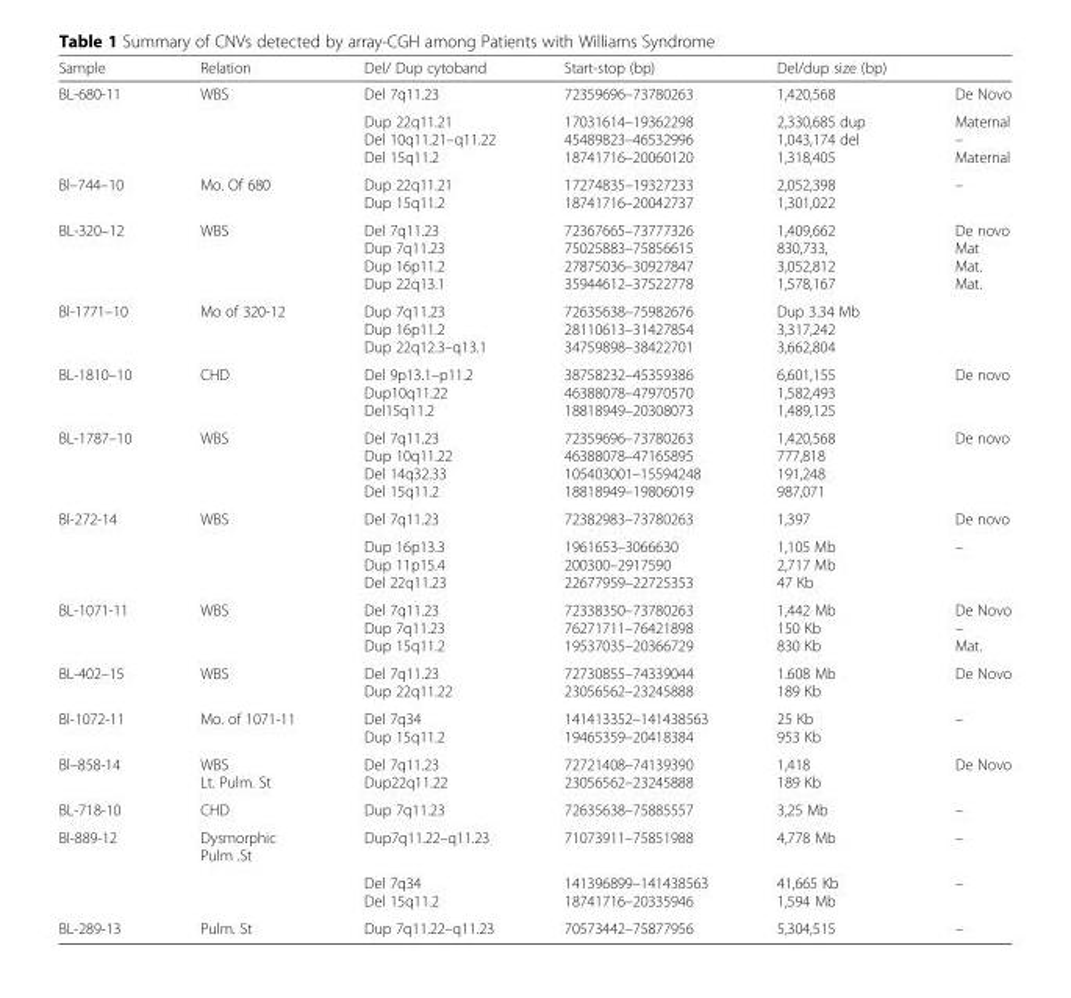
<table><thead><tr><td>Sample</td><td>Relation</td><td>Del/ Dup cytoband</td><td>Start-stop (bp)</td><td>Del/dup size (bp)</td><td></td></tr></thead><tbody><tr><td rowspan="2">BL-680-11</td><td rowspan="2">WBS</td><td>Del 7q11.23</td><td>72359696–73780263</td><td>1,420,568</td><td>De Novo</td></tr><tr><td>Dup 22q11.21 Del 10q11.21–q11.22 Del 15q11.2</td><td>17031614–19362298 45489823–46532996 18741716–20060120</td><td>2,330,685 dup 1,043,174 del 1,318,405</td><td>Maternal – Maternal</td></tr><tr><td>Bl–744–10</td><td>Mo. Of 680</td><td>Dup 22q11.21 Dup 15q11.2</td><td>17274835–19327233 18741716–20042737</td><td>2,052,398 1,301,022</td><td>–</td></tr><tr><td>BL-320–12</td><td>WBS</td><td>Del 7q11.23 Dup 7q11.23 Dup 16p11.2 Dup 22q13.1</td><td>72367665–73777326 75025883–75856615 27875036–30927847 35944612–37522778</td><td>1,409,662 830,733, 3,052,812 1,578,167</td><td>De novo Mat Mat. Mat.</td></tr><tr><td>Bl-1771–10</td><td>Mo of 320-12</td><td>Dup 7q11.23 Dup 16p11.2 Dup 22q12.3–q13.1</td><td>72635638–75982676 28110613–31427854 34759898–38422701</td><td>Dup 3.34 Mb 3,317,242 3,662,804</td><td></td></tr><tr><td>BL-1810–10</td><td>CHD</td><td>Del 9p13.1–p11.2 Dup10q11.22 Del15q11.2</td><td>38758232–45359386 46388078–47970570 18818949–20308073</td><td>6,601,155 1,582,493 1,489,125</td><td>De novo</td></tr><tr><td>BL-1787–10</td><td>WBS</td><td>Del 7q11.23 Dup 10q11.22 Del 14q32.33 Del 15q11.2</td><td>72359696–73780263 46388078–47165895 105403001–15594248 18818949–19806019</td><td>1,420,568 777,818 191,248 987,071</td><td>De novo</td></tr><tr><td rowspan="2">Bl-272-14</td><td rowspan="2">WBS</td><td>Del 7q11.23</td><td>72382983–73780263</td><td>1,397</td><td>De novo</td></tr><tr><td>Dup 16p13.3 Dup 11p15.4 Del 22q11.23</td><td>1961653–3066630 200300–2917590 22677959–22725353</td><td>1,105 Mb 2,717 Mb 47 Kb</td><td>–</td></tr><tr><td>BL-1071-11</td><td>WBS</td><td>Del 7q11.23 Dup 7q11.23 Dup 15q11.2</td><td>72338350–73780263 76271711–76421898 19537035–20366729</td><td>1,442 Mb 150 Kb 830 Kb</td><td>De Novo – Mat.</td></tr><tr><td>BL-402–15</td><td>WBS</td><td>Del 7q11.23 Dup 22q11.22</td><td>72730855–74339044 23056562–23245888</td><td>1.608 Mb 189 Kb</td><td>De Novo</td></tr><tr><td>Bl-1072-11</td><td>Mo. of 1071-11</td><td>Del 7q34 Dup 15q11.2</td><td>141413352–141438563 19465359–20418384</td><td>25 Kb 953 Kb</td><td>–</td></tr><tr><td>Bl–858-14</td><td>WBS Lt. Pulm. St</td><td>Del 7q11.23 Dup22q11.22</td><td>72721408–74139390 23056562–23245888</td><td>1,418 189 Kb</td><td>De Novo</td></tr><tr><td>BL-718-10</td><td>CHD</td><td>Dup 7q11.23</td><td>72635638–75885557</td><td>3,25 Mb</td><td>–</td></tr><tr><td rowspan="2">Bl-889-12</td><td>Dysmorphic Pulm .St</td><td>Dup7q11.22–q11.23</td><td>71073911–75851988</td><td>4,778 Mb</td><td>–</td></tr><tr><td></td><td>Del 7q34 Del 15q11.2</td><td>141396899–141438563 18741716–20335946</td><td>41,665 Kb 1,594 Mb</td><td>–</td></tr><tr><td>BL-289-13</td><td>Pulm. St</td><td>Dup 7q11.22–q11.23</td><td>70573442–75877956</td><td>5,304,515</td><td>–</td></tr></tbody></table>